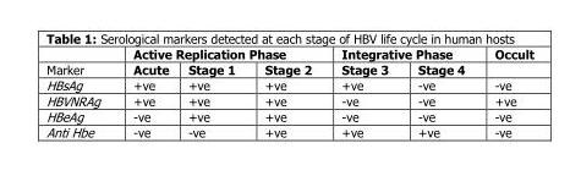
<table><thead><tr><td rowspan="2">Marker</td><td colspan="3">Active Replication Phase</td><td colspan="2">Integrative Phase</td><td rowspan="2">Occult</td></tr><tr><td>Acute</td><td>Stage 1</td><td>Stage 2</td><td>Stage 3</td><td>Stage 4</td></tr></thead><tbody><tr><td>HBsAg</td><td>+ve</td><td>+ve</td><td>+ve</td><td>+ve</td><td>-ve</td><td>-ve</td></tr><tr><td>HBVNRAg</td><td>+ve</td><td>+ve</td><td>+ve</td><td>-ve</td><td>-ve</td><td>+ve</td></tr><tr><td>HBeAg</td><td>-ve</td><td>+ve</td><td>+ve</td><td>-ve</td><td>-ve</td><td>-ve</td></tr><tr><td>Anti Hbe</td><td>-ve</td><td>-ve</td><td>+ve</td><td>+ve</td><td>+ve</td><td>-ve</td></tr></tbody></table>